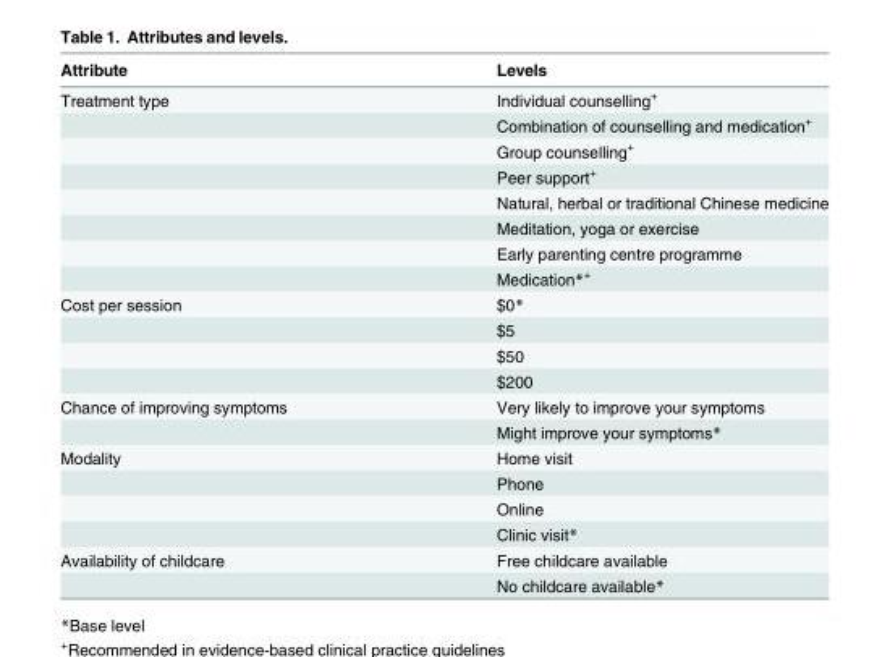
<table><thead><tr><td>Attribute</td><td>Levels</td></tr></thead><tbody><tr><td rowspan="8">Treatment type</td><td>Individual counselling<sup>+</sup></td></tr><tr><td>Combination of counselling and medication<sup>+</sup></td></tr><tr><td>Group counselling<sup>+</sup></td></tr><tr><td>Peer support<sup>+</sup></td></tr><tr><td>Natural, herbal or traditional Chinese medicine</td></tr><tr><td>Meditation, yoga or exercise</td></tr><tr><td>Early parenting centre programme</td></tr><tr><td>Medication*<sup>+</sup></td></tr><tr><td rowspan="4">Cost per session</td><td>$0*</td></tr><tr><td>$5</td></tr><tr><td>$50</td></tr><tr><td>$200</td></tr><tr><td rowspan="2">Chance of improving symptoms</td><td>Very likely to improve your symptoms</td></tr><tr><td>Might improve your symptoms*</td></tr><tr><td rowspan="4">Modality</td><td>Home visit</td></tr><tr><td>Phone</td></tr><tr><td>Online</td></tr><tr><td>Clinic visit*</td></tr><tr><td rowspan="2">Availability of childcare</td><td>Free childcare available</td></tr><tr><td>No childcare available*</td></tr></tbody></table>